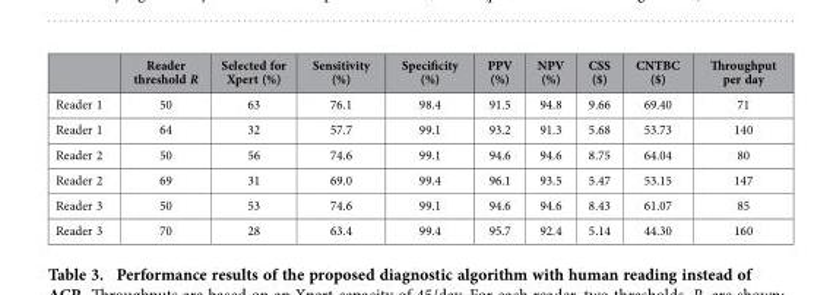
<table><thead><tr><td></td><td>Reader threshold R</td><td>Selected for Xpert (%)</td><td>Sensitivity (%)</td><td>Specificity (%)</td><td>PPV (%)</td><td>NPV (%)</td><td>CSS ($)</td><td>CNTBC ($)</td><td>Throughput per day</td></tr></thead><tbody><tr><td>Reader 1</td><td>50</td><td>63</td><td>76.1</td><td>98.4</td><td>91.5</td><td>94.8</td><td>9.66</td><td>69.40</td><td>71</td></tr><tr><td>Reader 1</td><td>64</td><td>32</td><td>57.7</td><td>99.1</td><td>93.2</td><td>91.3</td><td>5.68</td><td>53.73</td><td>140</td></tr><tr><td>Reader 2</td><td>50</td><td>56</td><td>74.6</td><td>99.1</td><td>94.6</td><td>94.6</td><td>8.75</td><td>64.04</td><td>80</td></tr><tr><td>Reader 2</td><td>69</td><td>31</td><td>69.0</td><td>99.4</td><td>96.1</td><td>93.5</td><td>5.47</td><td>53.15</td><td>147</td></tr><tr><td>Reader 3</td><td>50</td><td>53</td><td>74.6</td><td>99.1</td><td>94.6</td><td>94.6</td><td>8.43</td><td>61.07</td><td>85</td></tr><tr><td>Reader 3</td><td>70</td><td>28</td><td>63.4</td><td>99.4</td><td>95.7</td><td>92.4</td><td>5.14</td><td>44.30</td><td>160</td></tr></tbody></table>